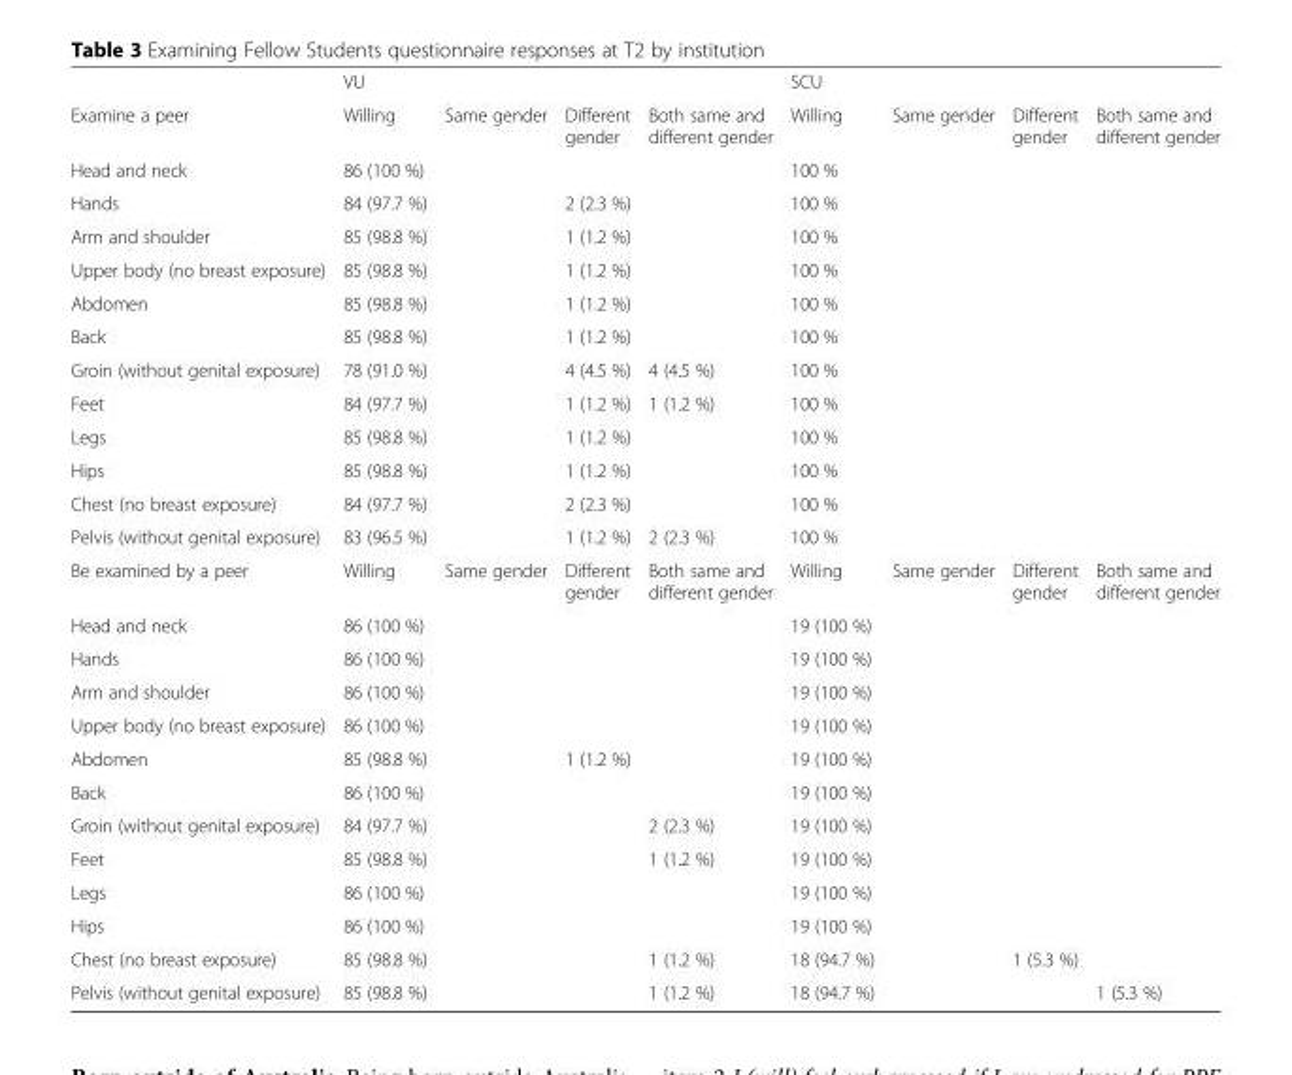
<table><thead><tr><td rowspan="2">Examine a peer</td><td colspan="4">VU</td><td colspan="4">SCU</td></tr><tr><td>Willing</td><td>Same gender</td><td>Different gender</td><td>Both same and different gender</td><td>Willing</td><td>Same gender</td><td>Different gender</td><td>Both same and different gender</td></tr></thead><tbody><tr><td>Head and neck</td><td>86 (100 %)</td><td></td><td></td><td></td><td>100 %</td><td></td><td></td><td></td></tr><tr><td>Hands</td><td>84 (97.7 %)</td><td></td><td>2 (2.3 %)</td><td></td><td>100 %</td><td></td><td></td><td></td></tr><tr><td>Arm and shoulder</td><td>85 (98.8 %)</td><td></td><td>1 (1.2 %)</td><td></td><td>100 %</td><td></td><td></td><td></td></tr><tr><td>Upper body (no breast exposure)</td><td>85 (98.8 %)</td><td></td><td>1 (1.2 %)</td><td></td><td>100 %</td><td></td><td></td><td></td></tr><tr><td>Abdomen</td><td>85 (98.8 %)</td><td></td><td>1 (1.2 %)</td><td></td><td>100 %</td><td></td><td></td><td></td></tr><tr><td>Back</td><td>85 (98.8 %)</td><td></td><td>1 (1.2 %)</td><td></td><td>100 %</td><td></td><td></td><td></td></tr><tr><td>Groin (without genital exposure)</td><td>78 (91.0 %)</td><td></td><td>4 (4.5 %)</td><td>4 (4.5 %)</td><td>100 %</td><td></td><td></td><td></td></tr><tr><td>Feet</td><td>84 (97.7 %)</td><td></td><td>1 (1.2 %)</td><td>1 (1.2 %)</td><td>100 %</td><td></td><td></td><td></td></tr><tr><td>Legs</td><td>85 (98.8 %)</td><td></td><td>1 (1.2 %)</td><td></td><td>100 %</td><td></td><td></td><td></td></tr><tr><td>Hips</td><td>85 (98.8 %)</td><td></td><td>1 (1.2 %)</td><td></td><td>100 %</td><td></td><td></td><td></td></tr><tr><td>Chest (no breast exposure)</td><td>84 (97.7 %)</td><td></td><td>2 (2.3 %)</td><td></td><td>100 %</td><td></td><td></td><td></td></tr><tr><td>Pelvis (without genital exposure)</td><td>83 (96.5 %)</td><td></td><td>1 (1.2 %)</td><td>2 (2.3 %)</td><td>100 %</td><td></td><td></td><td></td></tr><tr><td>Be examined by a peer</td><td>Willing</td><td>Same gender</td><td>Different gender</td><td>Both same and different gender</td><td>Willing</td><td>Same gender</td><td>Different gender</td><td>Both same and different gender</td></tr><tr><td>Head and neck</td><td>86 (100 %)</td><td></td><td></td><td></td><td>19 (100 %)</td><td></td><td></td><td></td></tr><tr><td>Hands</td><td>86 (100 %)</td><td></td><td></td><td></td><td>19 (100 %)</td><td></td><td></td><td></td></tr><tr><td>Arm and shoulder</td><td>86 (100 %)</td><td></td><td></td><td></td><td>19 (100 %)</td><td></td><td></td><td></td></tr><tr><td>Upper body (no breast exposure)</td><td>86 (100 %)</td><td></td><td></td><td></td><td>19 (100 %)</td><td></td><td></td><td></td></tr><tr><td>Abdomen</td><td>85 (98.8 %)</td><td></td><td>1 (1.2 %)</td><td></td><td>19 (100 %)</td><td></td><td></td><td></td></tr><tr><td>Back</td><td>86 (100 %)</td><td></td><td></td><td></td><td>19 (100 %)</td><td></td><td></td><td></td></tr><tr><td>Groin (without genital exposure)</td><td>84 (97.7 %)</td><td></td><td></td><td>2 (2.3 %)</td><td>19 (100 %)</td><td></td><td></td><td></td></tr><tr><td>Feet</td><td>85 (98.8 %)</td><td></td><td></td><td>1 (1.2 %)</td><td>19 (100 %)</td><td></td><td></td><td></td></tr><tr><td>Legs</td><td>86 (100 %)</td><td></td><td></td><td></td><td>19 (100 %)</td><td></td><td></td><td></td></tr><tr><td>Hips</td><td>86 (100 %)</td><td></td><td></td><td></td><td>19 (100 %)</td><td></td><td></td><td></td></tr><tr><td>Chest (no breast exposure)</td><td>85 (98.8 %)</td><td></td><td></td><td>1 (1.2 %)</td><td>18 (94.7 %)</td><td></td><td>1 (5.3 %)</td><td></td></tr><tr><td>Pelvis (without genital exposure)</td><td>85 (98.8 %)</td><td></td><td></td><td>1 (1.2 %)</td><td>18 (94.7 %)</td><td></td><td></td><td>1 (5.3 %)</td></tr></tbody></table>